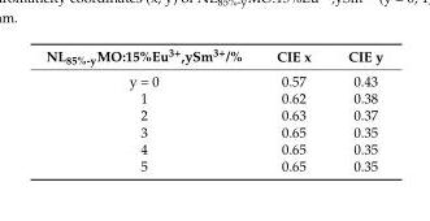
<table><thead><tr><td>NL<sub>85%-y</sub>MO:15%Eu<sup>3+</sup>,ySm<sup>3+</sup>/%</td><td>CIE x</td><td>CIE y</td></tr></thead><tbody><tr><td>y = 0</td><td>0.57</td><td>0.43</td></tr><tr><td>1</td><td>0.62</td><td>0.38</td></tr><tr><td>2</td><td>0.63</td><td>0.37</td></tr><tr><td>3</td><td>0.65</td><td>0.35</td></tr><tr><td>4</td><td>0.65</td><td>0.35</td></tr><tr><td>5</td><td>0.65</td><td>0.35</td></tr></tbody></table>